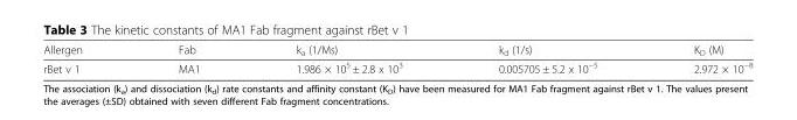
<table><thead><tr><td>Allergen</td><td>Fab</td><td>k<sub>a</sub> (1/Ms)</td><td>k<sub>d</sub> (1/s)</td><td>K<sub>D</sub> (M)</td></tr></thead><tbody><tr><td>rBet v 1</td><td>MA1</td><td>1.986 × 10<sup>5</sup> ± 2.8 x 10<sup>3</sup></td><td>0.005705 ± 5.2 x 10<sup>−5</sup></td><td>2.972 × 10<sup>−8</sup></td></tr></tbody></table>